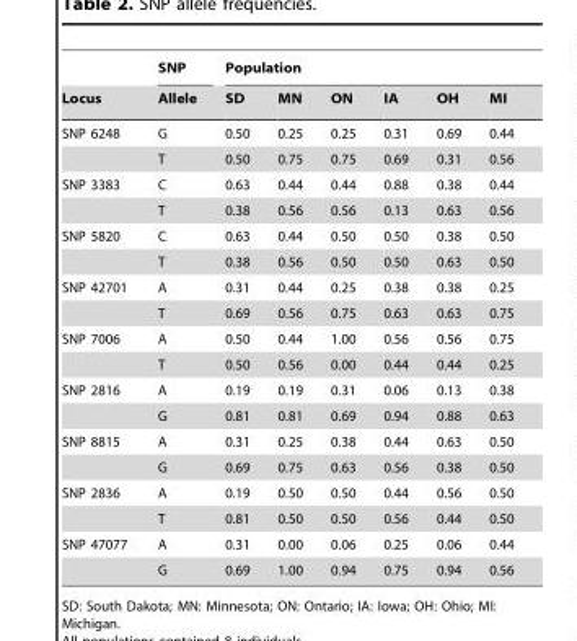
<table><thead><tr><td rowspan="2">Locus</td><td rowspan="2">SNP Allele</td><td colspan="6">Population</td></tr><tr><td>SD</td><td>MN</td><td>ON</td><td>IA</td><td>OH</td><td>MI</td></tr></thead><tbody><tr><td rowspan="2">SNP 6248</td><td>G</td><td>0.50</td><td>0.25</td><td>0.25</td><td>0.31</td><td>0.69</td><td>0.44</td></tr><tr><td>T</td><td>0.50</td><td>0.75</td><td>0.75</td><td>0.69</td><td>0.31</td><td>0.56</td></tr><tr><td rowspan="2">SNP 3383</td><td>C</td><td>0.63</td><td>0.44</td><td>0.44</td><td>0.88</td><td>0.38</td><td>0.44</td></tr><tr><td>T</td><td>0.38</td><td>0.56</td><td>0.56</td><td>0.13</td><td>0.63</td><td>0.56</td></tr><tr><td rowspan="2">SNP 5820</td><td>C</td><td>0.63</td><td>0.44</td><td>0.50</td><td>0.50</td><td>0.38</td><td>0.50</td></tr><tr><td>T</td><td>0.38</td><td>0.56</td><td>0.50</td><td>0.50</td><td>0.63</td><td>0.50</td></tr><tr><td rowspan="2">SNP 42701</td><td>A</td><td>0.31</td><td>0.44</td><td>0.25</td><td>0.38</td><td>0.38</td><td>0.25</td></tr><tr><td>T</td><td>0.69</td><td>0.56</td><td>0.75</td><td>0.63</td><td>0.63</td><td>0.75</td></tr><tr><td rowspan="2">SNP 7006</td><td>A</td><td>0.50</td><td>0.44</td><td>1.00</td><td>0.56</td><td>0.56</td><td>0.75</td></tr><tr><td>T</td><td>0.50</td><td>0.56</td><td>0.00</td><td>0.44</td><td>0.44</td><td>0.25</td></tr><tr><td rowspan="2">SNP 2816</td><td>A</td><td>0.19</td><td>0.19</td><td>0.31</td><td>0.06</td><td>0.13</td><td>0.38</td></tr><tr><td>G</td><td>0.81</td><td>0.81</td><td>0.69</td><td>0.94</td><td>0.88</td><td>0.63</td></tr><tr><td rowspan="2">SNP 8815</td><td>A</td><td>0.31</td><td>0.25</td><td>0.38</td><td>0.44</td><td>0.63</td><td>0.50</td></tr><tr><td>G</td><td>0.69</td><td>0.75</td><td>0.63</td><td>0.56</td><td>0.38</td><td>0.50</td></tr><tr><td rowspan="2">SNP 2836</td><td>A</td><td>0.19</td><td>0.50</td><td>0.50</td><td>0.44</td><td>0.56</td><td>0.50</td></tr><tr><td>T</td><td>0.81</td><td>0.50</td><td>0.50</td><td>0.56</td><td>0.44</td><td>0.50</td></tr><tr><td rowspan="2">SNP 47077</td><td>A</td><td>0.31</td><td>0.00</td><td>0.06</td><td>0.25</td><td>0.06</td><td>0.44</td></tr><tr><td>G</td><td>0.69</td><td>1.00</td><td>0.94</td><td>0.75</td><td>0.94</td><td>0.56</td></tr></tbody></table>